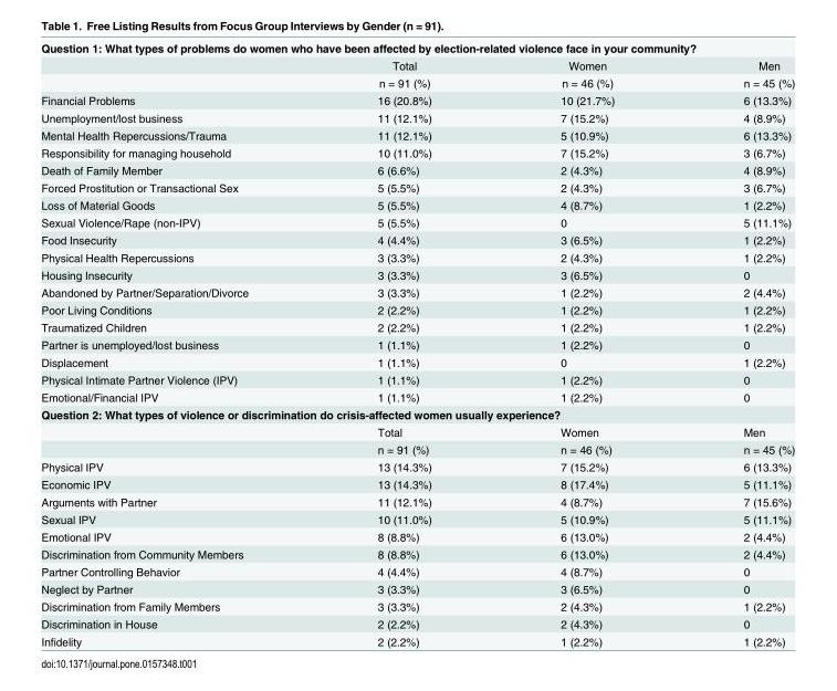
<table><tbody><tr><td colspan="4">Question 1: What types of problems do women who have been affected by election-related violence face in your community?</td></tr><tr><td></td><td>Total</td><td>Women</td><td>Men</td></tr><tr><td></td><td>n = 91 (%)</td><td>n = 46 (%)</td><td>n = 45 (%)</td></tr><tr><td>Financial Problems</td><td>16 (20.8%)</td><td>10 (21.7%)</td><td>6 (13.3%)</td></tr><tr><td>Unemployment/lost business</td><td>11 (12.1%)</td><td>7 (15.2%)</td><td>4 (8.9%)</td></tr><tr><td>Mental Health Repercussions/Trauma</td><td>11 (12.1%)</td><td>5 (10.9%)</td><td>6 (13.3%)</td></tr><tr><td>Responsibility for managing household</td><td>10 (11.0%)</td><td>7 (15.2%)</td><td>3 (6.7%)</td></tr><tr><td>Death of Family Member</td><td>6 (6.6%)</td><td>2 (4.3%)</td><td>4 (8.9%)</td></tr><tr><td>Forced Prostitution or Transactional Sex</td><td>5 (5.5%)</td><td>2 (4.3%)</td><td>3 (6.7%)</td></tr><tr><td>Loss of Material Goods</td><td>5 (5.5%)</td><td>4 (8.7%)</td><td>1 (2.2%)</td></tr><tr><td>Sexual Violence/Rape (non-IPV)</td><td>5 (5.5%)</td><td>0</td><td>5 (11.1%)</td></tr><tr><td>Food Insecurity</td><td>4 (4.4%)</td><td>3 (6.5%)</td><td>1 (2.2%)</td></tr><tr><td>Physical Health Repercussions</td><td>3 (3.3%)</td><td>2 (4.3%)</td><td>1 (2.2%)</td></tr><tr><td>Housing Insecurity</td><td>3 (3.3%)</td><td>3 (6.5%)</td><td>0</td></tr><tr><td>Abandoned by Partner/Separation/Divorce</td><td>3 (3.3%)</td><td>1 (2.2%)</td><td>2 (4.4%)</td></tr><tr><td>Poor Living Conditions</td><td>2 (2.2%)</td><td>1 (2.2%)</td><td>1 (2.2%)</td></tr><tr><td>Traumatized Children</td><td>2 (2.2%)</td><td>1 (2.2%)</td><td>1 (2.2%)</td></tr><tr><td>Partner is unemployed/lost business</td><td>1 (1.1%)</td><td>1 (2.2%)</td><td>0</td></tr><tr><td>Displacement</td><td>1 (1.1%)</td><td>0</td><td>1 (2.2%)</td></tr><tr><td>Physical Intimate Partner Violence (IPV)</td><td>1 (1.1%)</td><td>1 (2.2%)</td><td>0</td></tr><tr><td>Emotional/Financial IPV</td><td>1 (1.1%)</td><td>1 (2.2%)</td><td>0</td></tr><tr><td colspan="4">Question 2: What types of violence or discrimination do crisis-affected women usually experience?</td></tr><tr><td></td><td>Total</td><td>Women</td><td>Men</td></tr><tr><td></td><td>n = 91 (%)</td><td>n = 46 (%)</td><td>n = 45 (%)</td></tr><tr><td>Physical IPV</td><td>13 (14.3%)</td><td>7 (15.2%)</td><td>6 (13.3%)</td></tr><tr><td>Economic IPV</td><td>13 (14.3%)</td><td>8 (17.4%)</td><td>5 (11.1%)</td></tr><tr><td>Arguments with Partner</td><td>11 (12.1%)</td><td>4 (8.7%)</td><td>7 (15.6%)</td></tr><tr><td>Sexual IPV</td><td>10 (11.0%)</td><td>5 (10.9%)</td><td>5 (11.1%)</td></tr><tr><td>Emotional IPV</td><td>8 (8.8%)</td><td>6 (13.0%)</td><td>2 (4.4%)</td></tr><tr><td>Discrimination from Community Members</td><td>8 (8.8%)</td><td>6 (13.0%)</td><td>2 (4.4%)</td></tr><tr><td>Partner Controlling Behavior</td><td>4 (4.4%)</td><td>4 (8.7%)</td><td>0</td></tr><tr><td>Neglect by Partner</td><td>3 (3.3%)</td><td>3 (6.5%)</td><td>0</td></tr><tr><td>Discrimination from Family Members</td><td>3 (3.3%)</td><td>2 (4.3%)</td><td>1 (2.2%)</td></tr><tr><td>Discrimination in House</td><td>2 (2.2%)</td><td>2 (4.3%)</td><td>0</td></tr><tr><td>Infidelity</td><td>2 (2.2%)</td><td>1 (2.2%)</td><td>1 (2.2%)</td></tr></tbody></table>